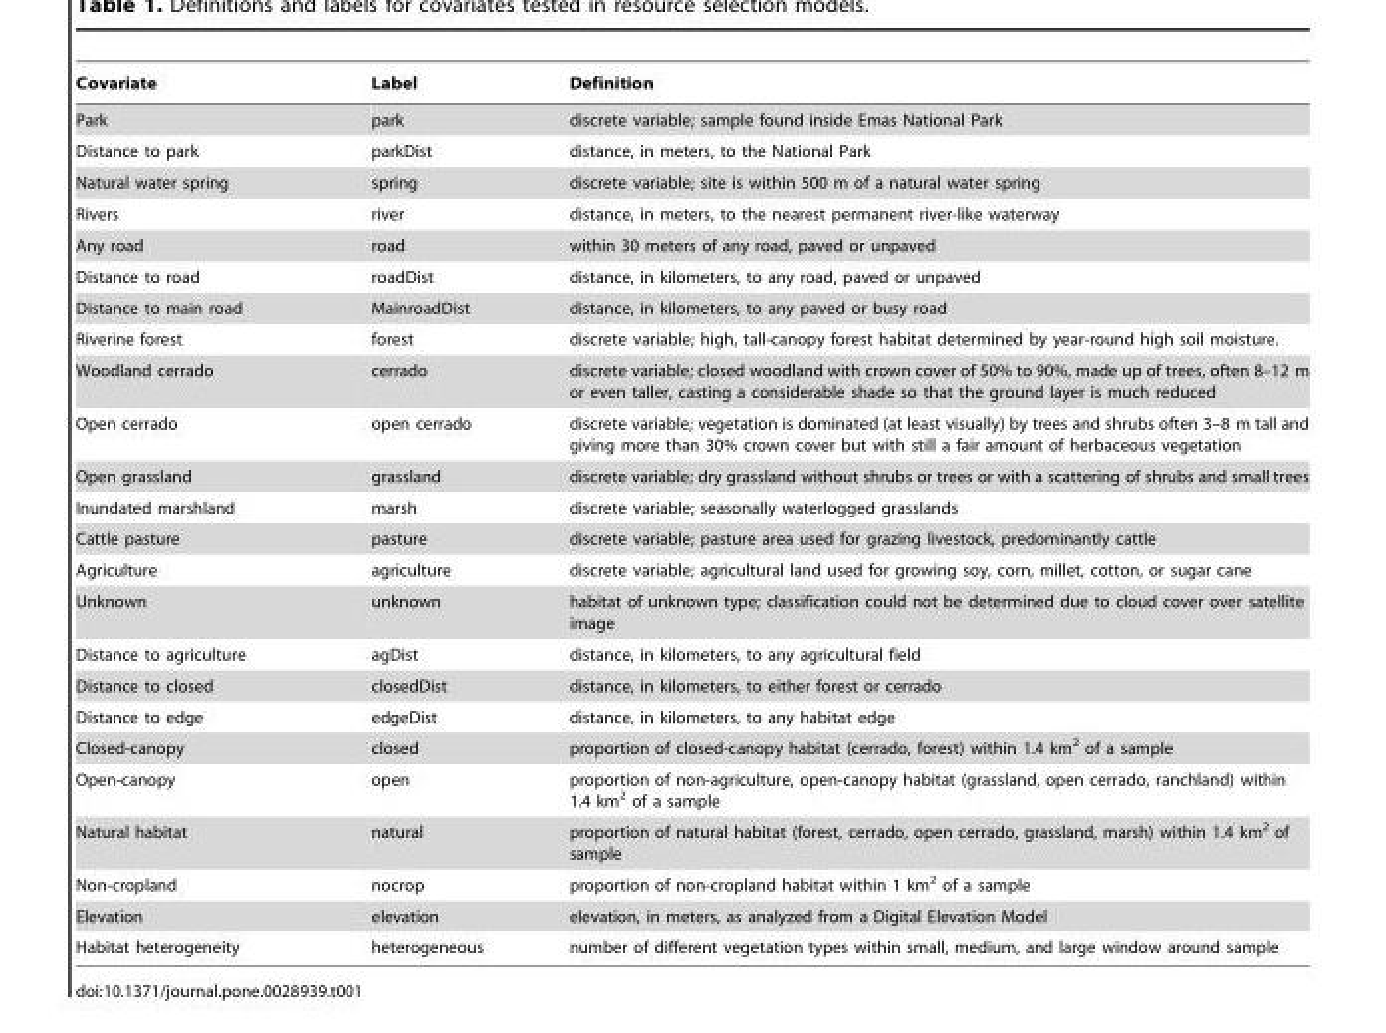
<table><thead><tr><td>Covariate</td><td>Label</td><td>Definition</td></tr></thead><tbody><tr><td>Park</td><td>park</td><td>discrete variable; sample found inside Emas National Park</td></tr><tr><td>Distance to park</td><td>parkDist</td><td>distance, in meters, to the National Park</td></tr><tr><td>Natural water spring</td><td>spring</td><td>discrete variable; site is within 500 m of a natural water spring</td></tr><tr><td>Rivers</td><td>river</td><td>distance, in meters, to the nearest permanent river-like waterway</td></tr><tr><td>Any road</td><td>road</td><td>within 30 meters of any road, paved or unpaved</td></tr><tr><td>Distance to road</td><td>roadDist</td><td>distance, in kilometers, to any road, paved or unpaved</td></tr><tr><td>Distance to main road</td><td>MainroadDist</td><td>distance, in kilometers, to any paved or busy road</td></tr><tr><td>Riverine forest</td><td>forest</td><td>discrete variable; high, tall-canopy forest habitat determined by year-round high soil moisture.</td></tr><tr><td>Woodland cerrado</td><td>cerrado</td><td>discrete variable; closed woodland with crown cover of 50% to 90%, made up of trees, often 8–12 m or even taller, casting a considerable shade so that the ground layer is much reduced</td></tr><tr><td>Open cerrado</td><td>open cerrado</td><td>discrete variable; vegetation is dominated (at least visually) by trees and shrubs often 3–8 m tall and giving more than 30% crown cover but with still a fair amount of herbaceous vegetation</td></tr><tr><td>Open grassland</td><td>grassland</td><td>discrete variable; dry grassland without shrubs or trees or with a scattering of shrubs and small trees</td></tr><tr><td>Inundated marshland</td><td>marsh</td><td>discrete variable; seasonally waterlogged grasslands</td></tr><tr><td>Cattle pasture</td><td>pasture</td><td>discrete variable; pasture area used for grazing livestock, predominantly cattle</td></tr><tr><td>Agriculture</td><td>agriculture</td><td>discrete variable; agricultural land used for growing soy, corn, millet, cotton, or sugar cane</td></tr><tr><td>Unknown</td><td>unknown</td><td>habitat of unknown type; classification could not be determined due to cloud cover over satellite image</td></tr><tr><td>Distance to agriculture</td><td>agDist</td><td>distance, in kilometers, to any agricultural field</td></tr><tr><td>Distance to closed</td><td>closedDist</td><td>distance, in kilometers, to either forest or cerrado</td></tr><tr><td>Distance to edge</td><td>edgeDist</td><td>distance, in kilometers, to any habitat edge</td></tr><tr><td>Closed-canopy</td><td>closed</td><td>proportion of closed-canopy habitat (cerrado, forest) within 1.4 km<sup>2</sup> of a sample</td></tr><tr><td>Open-canopy</td><td>open</td><td>proportion of non-agriculture, open-canopy habitat (grassland, open cerrado, ranchland) within 1.4 km<sup>2</sup> of a sample</td></tr><tr><td>Natural habitat</td><td>natural</td><td>proportion of natural habitat (forest, cerrado, open cerrado, grassland, marsh) within 1.4 km<sup>2</sup> of sample</td></tr><tr><td>Non-cropland</td><td>nocrop</td><td>proportion of non-cropland habitat within 1 km<sup>2</sup> of a sample</td></tr><tr><td>Elevation</td><td>elevation</td><td>elevation, in meters, as analyzed from a Digital Elevation Model</td></tr><tr><td>Habitat heterogeneity</td><td>heterogeneous</td><td>number of different vegetation types within small, medium, and large window around sample</td></tr></tbody></table>